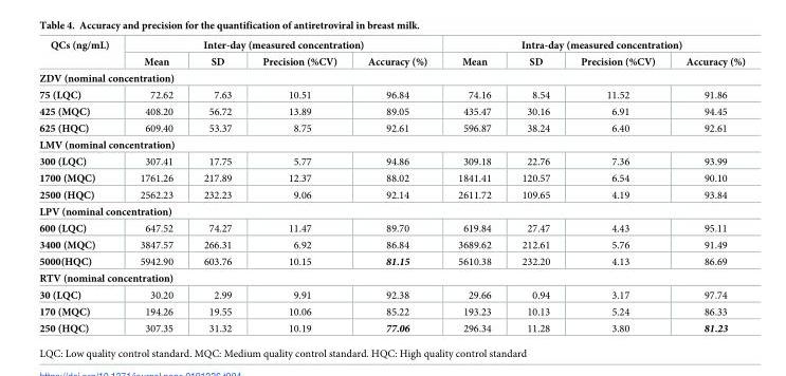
<table><thead><tr><td rowspan="2">QCs (ng/mL)</td><td colspan="4">Inter-day (measured concentration)</td><td colspan="4">Intra-day (measured concentration)</td></tr><tr><td>Mean</td><td>SD</td><td>Precision (%CV)</td><td>Accuracy (%)</td><td>Mean</td><td>SD</td><td>Precision (%CV)</td><td>Accuracy (%)</td></tr></thead><tbody><tr><td colspan="9">ZDV (nominal concentration)</td></tr><tr><td>75 (LQC)</td><td>72.62</td><td>7.63</td><td>10.51</td><td>96.84</td><td>74.16</td><td>8.54</td><td>11.52</td><td>91.86</td></tr><tr><td>425 (MQC)</td><td>408.20</td><td>56.72</td><td>13.89</td><td>89.05</td><td>435.47</td><td>30.16</td><td>6.91</td><td>94.45</td></tr><tr><td>625 (HQC)</td><td>609.40</td><td>53.37</td><td>8.75</td><td>92.61</td><td>596.87</td><td>38.24</td><td>6.40</td><td>92.61</td></tr><tr><td colspan="9">LMV (nominal concentration)</td></tr><tr><td>300 (LQC)</td><td>307.41</td><td>17.75</td><td>5.77</td><td>94.86</td><td>309.18</td><td>22.76</td><td>7.36</td><td>93.99</td></tr><tr><td>1700 (MQC)</td><td>1761.26</td><td>217.89</td><td>12.37</td><td>88.02</td><td>1841.41</td><td>120.57</td><td>6.54</td><td>90.10</td></tr><tr><td>2500 (HQC)</td><td>2562.23</td><td>232.23</td><td>9.06</td><td>92.14</td><td>2611.72</td><td>109.65</td><td>4.19</td><td>93.84</td></tr><tr><td colspan="9">LPV (nominal concentration)</td></tr><tr><td>600 (LQC)</td><td>647.52</td><td>74.27</td><td>11.47</td><td>89.70</td><td>619.84</td><td>27.47</td><td>4.43</td><td>95.11</td></tr><tr><td>3400 (MQC)</td><td>3847.57</td><td>266.31</td><td>6.92</td><td>86.84</td><td>3689.62</td><td>212.61</td><td>5.76</td><td>91.49</td></tr><tr><td>5000(HQC)</td><td>5942.90</td><td>603.76</td><td>10.15</td><td>81.15</td><td>5610.38</td><td>232.20</td><td>4.13</td><td>86.69</td></tr><tr><td colspan="9">RTV (nominal concentration)</td></tr><tr><td>30 (LQC)</td><td>30.20</td><td>2.99</td><td>9.91</td><td>92.38</td><td>29.66</td><td>0.94</td><td>3.17</td><td>97.74</td></tr><tr><td>170 (MQC)</td><td>194.26</td><td>19.55</td><td>10.06</td><td>85.22</td><td>193.23</td><td>10.13</td><td>5.24</td><td>86.33</td></tr><tr><td>250 (HQC)</td><td>307.35</td><td>31.32</td><td>10.19</td><td>77.06</td><td>296.34</td><td>11.28</td><td>3.80</td><td>81.23</td></tr></tbody></table>